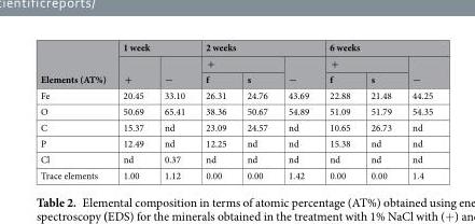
<table><thead><tr><td rowspan="3">Elements (AT%)</td><td colspan="2">1 week</td><td colspan="3">2 weeks</td><td colspan="3">6 weeks</td></tr><tr><td rowspan="2">+</td><td rowspan="2">−</td><td colspan="2">+</td><td rowspan="2">−</td><td colspan="2">+</td><td rowspan="2">−</td></tr><tr><td>f</td><td>s</td><td>f</td><td>s</td></tr></thead><tbody><tr><td>Fe</td><td>20.45</td><td>33.10</td><td>26.31</td><td>24.76</td><td>43.69</td><td>22.88</td><td>21.48</td><td>44.25</td></tr><tr><td>O</td><td>50.69</td><td>65.41</td><td>38.36</td><td>50.67</td><td>54.89</td><td>51.09</td><td>51.79</td><td>54.35</td></tr><tr><td>C</td><td>15.37</td><td>nd</td><td>23.09</td><td>24.57</td><td>nd</td><td>10.65</td><td>26.73</td><td>nd</td></tr><tr><td>P</td><td>12.49</td><td>nd</td><td>12.25</td><td>nd</td><td>nd</td><td>15.38</td><td>nd</td><td>nd</td></tr><tr><td>Cl</td><td>nd</td><td>0.37</td><td>nd</td><td>nd</td><td>nd</td><td>nd</td><td>nd</td><td>nd</td></tr><tr><td>Trace elements</td><td>1.00</td><td>1.12</td><td>0.00</td><td>0.00</td><td>1.42</td><td>0.00</td><td>0.00</td><td>1.4</td></tr></tbody></table>